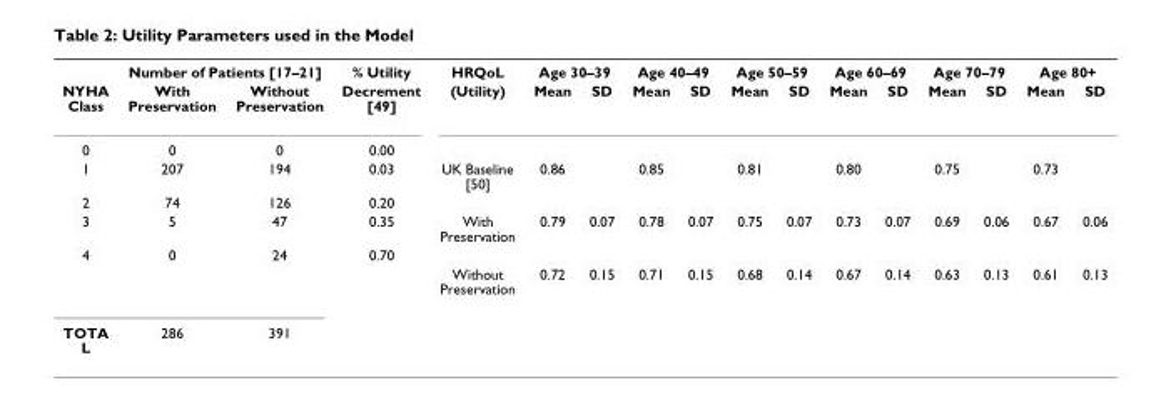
<table><thead><tr><td rowspan="2">NYHA Class</td><td colspan="2">Number of Patients [17–21]</td><td rowspan="2">% Utility Decrement [49]</td><td rowspan="2">HRQoL (Utility)</td><td colspan="2">Age 30–39</td><td colspan="2">Age 40–49</td><td colspan="2">Age 50–59</td><td colspan="2">Age 60–69</td><td colspan="2">Age 70–79</td><td colspan="2">Age 80+</td></tr><tr><td>With Preservation</td><td>Without Preservation</td><td>Mean</td><td>SD</td><td>Mean</td><td>SD</td><td>Mean</td><td>SD</td><td>Mean</td><td>SD</td><td>Mean</td><td>SD</td><td>Mean</td><td>SD</td></tr></thead><tbody><tr><td>0</td><td>0</td><td>0</td><td>0.00</td><td></td><td></td><td></td><td></td><td></td><td></td><td></td><td></td><td></td><td></td><td></td><td></td><td></td></tr><tr><td>1</td><td>207</td><td>194</td><td>0.03</td><td>UK Baseline [50]</td><td>0.86</td><td></td><td>0.85</td><td></td><td>0.81</td><td></td><td>0.80</td><td></td><td>0.75</td><td></td><td>0.73</td><td></td></tr><tr><td>2</td><td>74</td><td>126</td><td>0.20</td><td></td><td></td><td></td><td></td><td></td><td></td><td></td><td></td><td></td><td></td><td></td><td></td><td></td></tr><tr><td>3</td><td>5</td><td>47</td><td>0.35</td><td>With Preservation</td><td>0.79</td><td>0.07</td><td>0.78</td><td>0.07</td><td>0.75</td><td>0.07</td><td>0.73</td><td>0.07</td><td>0.69</td><td>0.06</td><td>0.67</td><td>0.06</td></tr><tr><td rowspan="2">4</td><td>0</td><td>24</td><td>0.70</td><td></td><td></td><td></td><td></td><td></td><td></td><td></td><td></td><td></td><td></td><td></td><td></td><td></td></tr><tr><td></td><td></td><td></td><td>Without Preservation</td><td>0.72</td><td>0.15</td><td>0.71</td><td>0.15</td><td>0.68</td><td>0.14</td><td>0.67</td><td>0.14</td><td>0.63</td><td>0.13</td><td>0.61</td><td>0.13</td></tr><tr><td>TOTA L</td><td>286</td><td>391</td><td></td><td></td><td></td><td></td><td></td><td></td><td></td><td></td><td></td><td></td><td></td><td></td><td></td><td></td></tr></tbody></table>